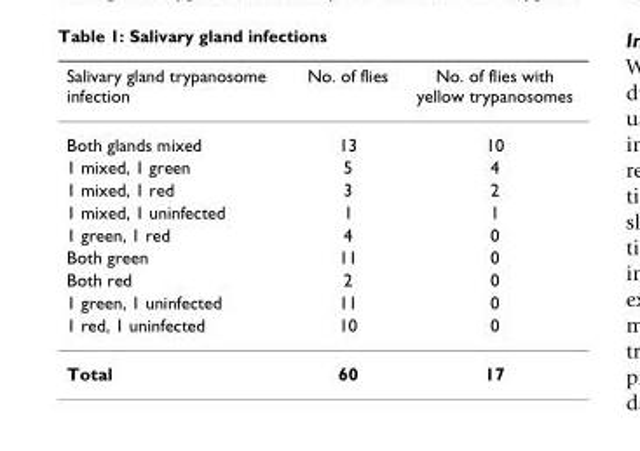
<table><thead><tr><td>Salivary gland trypanosome infection</td><td>No. of flies</td><td>No. of flies with yellow trypanosomes</td></tr></thead><tbody><tr><td>Both glands mixed</td><td>13</td><td>10</td></tr><tr><td>1 mixed, 1 green</td><td>5</td><td>4</td></tr><tr><td>1 mixed, 1 red</td><td>3</td><td>2</td></tr><tr><td>1 mixed, 1 uninfected</td><td>1</td><td>1</td></tr><tr><td>1 green, 1 red</td><td>4</td><td>0</td></tr><tr><td>Both green</td><td>11</td><td>0</td></tr><tr><td>Both red</td><td>2</td><td>0</td></tr><tr><td>1 green, 1 uninfected</td><td>11</td><td>0</td></tr><tr><td>1 red, 1 uninfected</td><td>10</td><td>0</td></tr><tr><td>Total</td><td>60</td><td>17</td></tr></tbody></table>